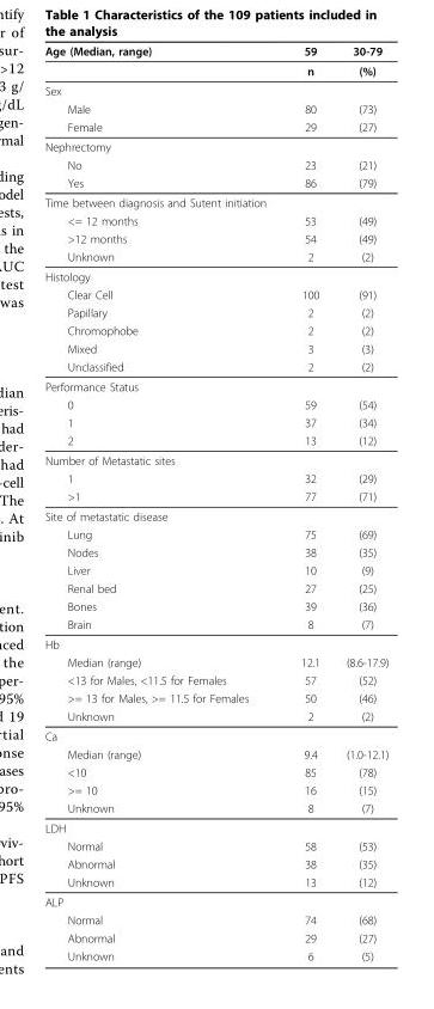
<table><thead><tr><td>Age (Median, range)</td><td>59</td><td>30-79</td></tr></thead><tbody><tr><td></td><td>n</td><td>(%)</td></tr><tr><td colspan="3">Sex</td></tr><tr><td>Male</td><td>80</td><td>(73)</td></tr><tr><td>Female</td><td>29</td><td>(27)</td></tr><tr><td colspan="3">Nephrectomy</td></tr><tr><td>No</td><td>23</td><td>(21)</td></tr><tr><td>Yes</td><td>86</td><td>(79)</td></tr><tr><td colspan="3">Time between diagnosis and Sutent initiation</td></tr><tr><td>&lt;= 12 months</td><td>53</td><td>(49)</td></tr><tr><td>&gt;12 months</td><td>54</td><td>(49)</td></tr><tr><td>Unknown</td><td>2</td><td>(2)</td></tr><tr><td colspan="3">Histology</td></tr><tr><td>Clear Cell</td><td>100</td><td>(91)</td></tr><tr><td>Papillary</td><td>2</td><td>(2)</td></tr><tr><td>Chromophobe</td><td>2</td><td>(2)</td></tr><tr><td>Mixed</td><td>3</td><td>(3)</td></tr><tr><td>Unclassified</td><td>2</td><td>(2)</td></tr><tr><td colspan="3">Performance Status</td></tr><tr><td>0</td><td>59</td><td>(54)</td></tr><tr><td>1</td><td>37</td><td>(34)</td></tr><tr><td>2</td><td>13</td><td>(12)</td></tr><tr><td colspan="3">Number of Metastatic sites</td></tr><tr><td>1</td><td>32</td><td>(29)</td></tr><tr><td>&gt;1</td><td>77</td><td>(71)</td></tr><tr><td colspan="3">Site of metastatic disease</td></tr><tr><td>Lung</td><td>75</td><td>(69)</td></tr><tr><td>Nodes</td><td>38</td><td>(35)</td></tr><tr><td>Liver</td><td>10</td><td>(9)</td></tr><tr><td>Renal bed</td><td>27</td><td>(25)</td></tr><tr><td>Bones</td><td>39</td><td>(36)</td></tr><tr><td>Brain</td><td>8</td><td>(7)</td></tr><tr><td colspan="3">Hb</td></tr><tr><td>Median (range)</td><td>12.1</td><td>(8.6-17.9)</td></tr><tr><td>&lt;13 for Males, &lt;11.5 for Females</td><td>57</td><td>(52)</td></tr><tr><td>&gt;= 13 for Males, &gt;= 11.5 for Females</td><td>50</td><td>(46)</td></tr><tr><td>Unknown</td><td>2</td><td>(2)</td></tr><tr><td colspan="3">Ca</td></tr><tr><td>Median (range)</td><td>9.4</td><td>(1.0-12.1)</td></tr><tr><td>&lt;10</td><td>85</td><td>(78)</td></tr><tr><td>&gt;= 10</td><td>16</td><td>(15)</td></tr><tr><td>Unknown</td><td>8</td><td>(7)</td></tr><tr><td colspan="3">LDH</td></tr><tr><td>Normal</td><td>58</td><td>(53)</td></tr><tr><td>Abnormal</td><td>38</td><td>(35)</td></tr><tr><td>Unknown</td><td>13</td><td>(12)</td></tr><tr><td colspan="3">ALP</td></tr><tr><td>Normal</td><td>74</td><td>(68)</td></tr><tr><td>Abnormal</td><td>29</td><td>(27)</td></tr><tr><td>Unknown</td><td>6</td><td>(5)</td></tr></tbody></table>